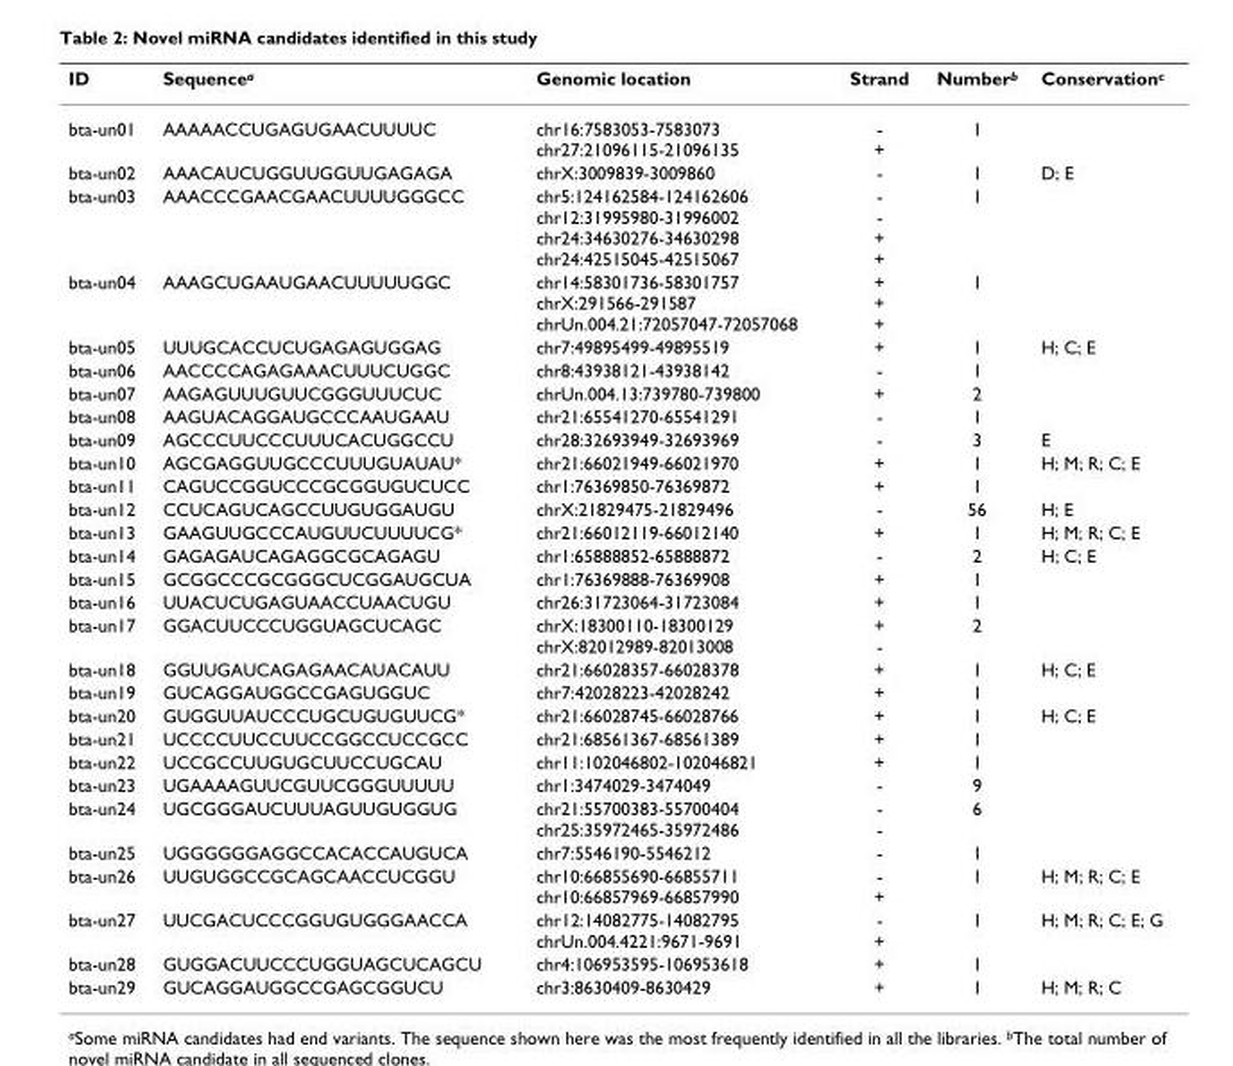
<table><thead><tr><td>ID</td><td>Sequence<sup>a</sup></td><td>Genomic location</td><td>Strand</td><td>Number<sup>b</sup></td><td>Conservation<sup>c</sup></td></tr></thead><tbody><tr><td>bta-un01</td><td>AAAAACCUGAGUGAACUUUUC</td><td>chr16:7583053-7583073 chr27:21096115-21096135</td><td>- +</td><td>1</td><td></td></tr><tr><td>bta-un02</td><td>AAACAUCUGGUUGGUUGAGAGA</td><td>chrX:3009839-3009860</td><td>-</td><td>1</td><td>D; E</td></tr><tr><td>bta-un03</td><td>AAACCCGAACGAACUUUUGGGCC</td><td>chr5:124162584-124162606 chr12:31995980-31996002 chr24:34630276-34630298 chr24:42515045-42515067</td><td>- - + +</td><td>1</td><td></td></tr><tr><td>bta-un04</td><td>AAAGCUGAAUGAACUUUUUGGC</td><td>chr14:58301736-58301757 chrX:291566-291587 chrUn.004.21:72057047-72057068</td><td>+ + +</td><td>1</td><td></td></tr><tr><td>bta-un05</td><td>UUUGCACCUCUGAGAGUGGAG</td><td>chr7:49895499-49895519</td><td>+</td><td>1</td><td>H; C; E</td></tr><tr><td>bta-un06</td><td>AACCCCAGAGAAACUUUCUGGC</td><td>chr8:43938121-43938142</td><td>-</td><td>1</td><td></td></tr><tr><td>bta-un07</td><td>AAGAGUUUGUUCGGGUUUCUC</td><td>chrUn.004.13:739780-739800</td><td>+</td><td>2</td><td></td></tr><tr><td>bta-un08</td><td>AAGUACAGGAUGCCCAAUGAAU</td><td>chr21:65541270-65541291</td><td>-</td><td>1</td><td></td></tr><tr><td>bta-un09</td><td>AGCCCUUCCCUUUCACUGGCCU</td><td>chr28:32693949-32693969</td><td>-</td><td>3</td><td>E</td></tr><tr><td>bta-un10</td><td>AGCGAGGUUGCCCUUUGUAUAU*</td><td>chr21:66021949-66021970</td><td>+</td><td>1</td><td>H; M; R; C; E</td></tr><tr><td>bta-un11</td><td>CAGUCCGGUCCCGCGGUGUCUCC</td><td>chr1:76369850-76369872</td><td>+</td><td>1</td><td></td></tr><tr><td>bta-un12</td><td>CCUCAGUCAGCCUUGUGGAUGU</td><td>chrX:21829475-21829496</td><td>-</td><td>56</td><td>H; E</td></tr><tr><td>bta-un13</td><td>GAAGUUGCCCAUGUUCUUUUCG*</td><td>chr21:66012119-66012140</td><td>+</td><td>1</td><td>H; M; R; C; E</td></tr><tr><td>bta-un14</td><td>GAGAGAUCAGAGGCGCAGAGU</td><td>chr1:65888852-65888872</td><td>-</td><td>2</td><td>H; C; E</td></tr><tr><td>bta-un15</td><td>GCGGCCCGCGGGCUCGGAUGCUA</td><td>chr1:76369888-76369908</td><td>+</td><td>1</td><td></td></tr><tr><td>bta-un16</td><td>UUACUCUGAGUAACCUAACUGU</td><td>chr26:31723064-31723084</td><td>+</td><td>1</td><td></td></tr><tr><td>bta-un17</td><td>GGACUUCCCUGGUAGCUCAGC</td><td>chrX:18300110-18300129 chrX:82012989-82013008</td><td>+ -</td><td>2</td><td></td></tr><tr><td>bta-un18</td><td>GGUUGAUCAGAGAACAUACAUU</td><td>chr21:66028357-66028378</td><td>+</td><td>1</td><td>H; C; E</td></tr><tr><td>bta-un19</td><td>GUCAGGAUGGCCGAGUGGUC</td><td>chr7:42028223-42028242</td><td>+</td><td>1</td><td></td></tr><tr><td>bta-un20</td><td>GUGGUUAUCCCUGCUGUGUUCG*</td><td>chr21:66028745-66028766</td><td>+</td><td>1</td><td>H; C; E</td></tr><tr><td>bta-un21</td><td>UCCCCUUCCUUCCGGCCUCCGCC</td><td>chr21:68561367-68561389</td><td>+</td><td>1</td><td></td></tr><tr><td>bta-un22</td><td>UCCGCCUUGUGCUUCCUGCAU</td><td>chr11:102046802-102046821</td><td>+</td><td>1</td><td></td></tr><tr><td>bta-un23</td><td>UGAAAAGUUCGUUCGGGUUUUU</td><td>chr1:3474029-3474049</td><td>-</td><td>9</td><td></td></tr><tr><td>bta-un24</td><td>UGCGGGAUCUUUAGUUGUGGUG</td><td>chr21:55700383-55700404 chr25:35972465-35972486</td><td>- -</td><td>6</td><td></td></tr><tr><td>bta-un25</td><td>UGGGGGGAGGCCACACCAUGUCA</td><td>chr7:5546190-5546212</td><td>-</td><td>1</td><td></td></tr><tr><td>bta-un26</td><td>UUGUGGCCGCAGCAACCUCGGU</td><td>chr10:66855690-66855711 chr10:66857969-66857990</td><td>- +</td><td>1</td><td>H; M; R; C; E</td></tr><tr><td>bta-un27</td><td>UUCGACUCCCGGUGUGGGAACCA</td><td>chr12:14082775-14082795 chrUn.004.4221:9671-9691</td><td>- +</td><td>1</td><td>H; M; R; C; E; G</td></tr><tr><td>bta-un28</td><td>GUGGACUUCCCUGGUAGCUCAGCU</td><td>chr4:106953595-106953618</td><td>+</td><td>1</td><td></td></tr><tr><td>bta-un29</td><td>GUCAGGAUGGCCGAGCGGUCU</td><td>chr3:8630409-8630429</td><td>+</td><td>1</td><td>H; M; R; C</td></tr></tbody></table>